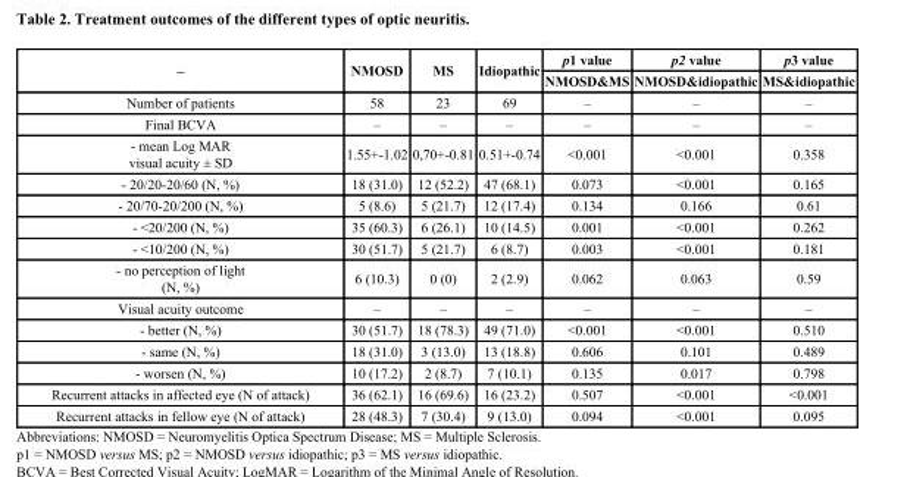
<table><thead><tr><td rowspan="2">–</td><td rowspan="2">NMOSD</td><td rowspan="2">MS</td><td rowspan="2">Idiopathic</td><td rowspan="2">p1 value NMOSD&amp;MS</td><td rowspan="2">p2 value NMOSD&amp;idiopathic</td><td rowspan="2">p3 value MS&amp;idiopathic</td></tr><tr></tr></thead><tbody><tr><td>Number of patients</td><td>58</td><td>23</td><td>69</td><td>–</td><td>–</td><td>–</td></tr><tr><td>Final BCVA</td><td>–</td><td>–</td><td>–</td><td>–</td><td>–</td><td>–</td></tr><tr><td>- mean Log MAR visual acuity ± SD</td><td>1.55+-1.02</td><td>0,70+-0.81</td><td>0.51+-0.74</td><td>&lt;0.001</td><td>&lt;0.001</td><td>0.358</td></tr><tr><td>- 20/20-20/60 (N, %)</td><td>18 (31.0)</td><td>12 (52.2)</td><td>47 (68.1)</td><td>0.073</td><td>&lt;0.001</td><td>0.165</td></tr><tr><td>- 20/70-20/200 (N, %)</td><td>5 (8.6)</td><td>5 (21.7)</td><td>12 (17.4)</td><td>0.134</td><td>0.166</td><td>0.61</td></tr><tr><td>- &lt;20/200 (N, %)</td><td>35 (60.3)</td><td>6 (26.1)</td><td>10 (14.5)</td><td>0.001</td><td>&lt;0.001</td><td>0.262</td></tr><tr><td>- &lt;10/200 (N, %)</td><td>30 (51.7)</td><td>5 (21.7)</td><td>6 (8.7)</td><td>0.003</td><td>&lt;0.001</td><td>0.181</td></tr><tr><td>- no perception of light (N, %)</td><td>6 (10.3)</td><td>0 (0)</td><td>2 (2.9)</td><td>0.062</td><td>0.063</td><td>0.59</td></tr><tr><td>Visual acuity outcome</td><td>–</td><td>–</td><td>–</td><td>–</td><td>–</td><td>–</td></tr><tr><td>- better (N, %)</td><td>30 (51.7)</td><td>18 (78.3)</td><td>49 (71.0)</td><td>&lt;0.001</td><td>&lt;0.001</td><td>0.510</td></tr><tr><td>- same (N, %)</td><td>18 (31.0)</td><td>3 (13.0)</td><td>13 (18.8)</td><td>0.606</td><td>0.101</td><td>0.489</td></tr><tr><td>- worsen (N, %)</td><td>10 (17.2)</td><td>2 (8.7)</td><td>7 (10.1)</td><td>0.135</td><td>0.017</td><td>0.798</td></tr><tr><td>Recurrent attacks in affected eye (N of attack)</td><td>36 (62.1)</td><td>16 (69.6)</td><td>16 (23.2)</td><td>0.507</td><td>&lt;0.001</td><td>&lt;0.001</td></tr><tr><td>Recurrent attacks in fellow eye (N of attack)</td><td>28 (48.3)</td><td>7 (30.4)</td><td>9 (13.0)</td><td>0.094</td><td>&lt;0.001</td><td>0.095</td></tr></tbody></table>